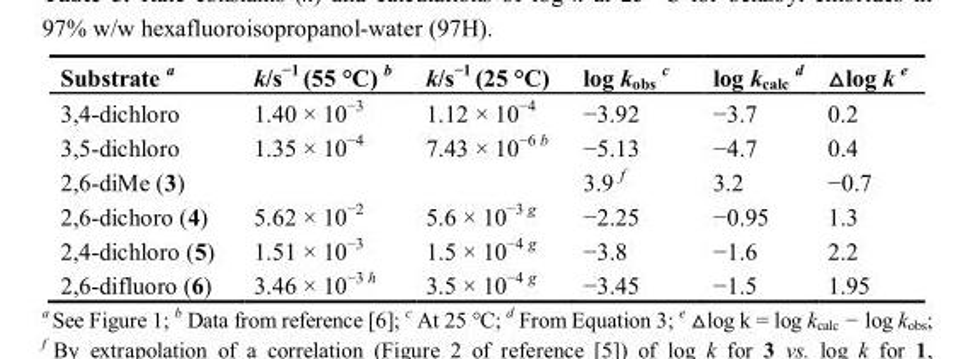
<table><thead><tr><td>Substrate <sup>a</sup></td><td>k/s<sup>−1</sup> (55 °C) <sup>b</sup></td><td>k/s<sup>−1</sup> (25 °C)</td><td>log k<sub>obs</sub> <sup>c</sup></td><td>log k<sub>calc</sub> <sup>d</sup></td><td>△log k e</td></tr></thead><tbody><tr><td>3,4-dichloro</td><td>1.40 × 10<sup>−3</sup></td><td>1.12 × 10<sup>−4</sup></td><td>−3.92</td><td>−3.7</td><td>0.2</td></tr><tr><td>3,5-dichloro</td><td>1.35 × 10<sup>−4</sup></td><td>7.43 × 10<sup>−6 b</sup></td><td>−5.13</td><td>−4.7</td><td>0.4</td></tr><tr><td>2,6-diMe (3)</td><td></td><td></td><td>3.9 <sup>f</sup></td><td>3.2</td><td>−0.7</td></tr><tr><td>2,6-dichoro (4)</td><td>5.62 × 10<sup>−2</sup></td><td>5.6 × 10<sup>−3 g</sup></td><td>−2.25</td><td>−0.95</td><td>1.3</td></tr><tr><td>2,4-dichloro (5)</td><td>1.51 × 10<sup>−3</sup></td><td>1.5 × 10<sup>−4 g</sup></td><td>−3.8</td><td>−1.6</td><td>2.2</td></tr><tr><td>2,6-difluoro (6)</td><td>3.46 × 10<sup>−3 h</sup></td><td>3.5 × 10<sup>−4 g</sup></td><td>−3.45</td><td>−1.5</td><td>1.95</td></tr></tbody></table>